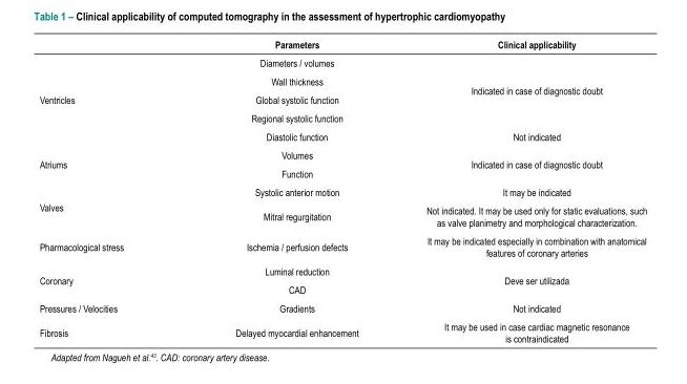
<table><thead><tr><td></td><td>Parameters</td><td>Clinical applicability</td></tr></thead><tbody><tr><td rowspan="5">Ventricles</td><td>Diameters / volumes</td><td rowspan="4">Indicated in case of diagnostic doubt</td></tr><tr><td>Wall thickness</td></tr><tr><td>Global systolic function</td></tr><tr><td>Regional systolic function</td></tr><tr><td>Diastolic function</td><td>Not indicated</td></tr><tr><td rowspan="2">Atriums</td><td>Volumes</td><td rowspan="2">Indicated in case of diagnostic doubt</td></tr><tr><td>Function</td></tr><tr><td rowspan="2">Valves</td><td>Systolic anterior motion</td><td>It may be indicated</td></tr><tr><td>Mitral regurgitation</td><td>Not indicated. It may be used only for static evaluations, such as valve planimetry and morphological characterization.</td></tr><tr><td>Pharmacological stress</td><td>Ischemia / perfusion defects</td><td>It may be indicated especially in combination with anatomical features of coronary arteries</td></tr><tr><td rowspan="2">Coronary</td><td>Luminal reduction</td><td rowspan="2">Deve ser utilizada</td></tr><tr><td>CAD</td></tr><tr><td>Pressures / Velocities</td><td>Gradients</td><td>Not indicated</td></tr><tr><td>Fibrosis</td><td>Delayed myocardial enhancement</td><td>It may be used in case cardiac magnetic resonance is contraindicated</td></tr></tbody></table>